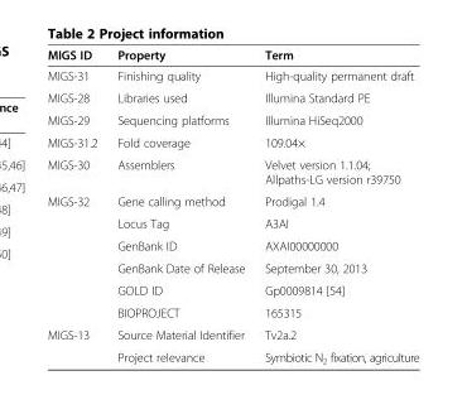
<table><thead><tr><td>MIGS ID</td><td>Property</td><td>Term</td></tr></thead><tbody><tr><td>MIGS-31</td><td>Finishing quality</td><td>High-quality permanent draft</td></tr><tr><td>MIGS-28</td><td>Libraries used</td><td>Illumina Standard PE</td></tr><tr><td>MIGS-29</td><td>Sequencing platforms</td><td>Illumina HiSeq2000</td></tr><tr><td>MIGS-31.2</td><td>Fold coverage</td><td>109.04×</td></tr><tr><td>MIGS-30</td><td>Assemblers</td><td>Velvet version 1.1.04; Allpaths-LG version r39750</td></tr><tr><td rowspan="6">MIGS-32</td><td>Gene calling method</td><td>Prodigal 1.4</td></tr><tr><td>Locus Tag</td><td>A3AI</td></tr><tr><td>GenBank ID</td><td>AXAI00000000</td></tr><tr><td>GenBank Date of Release</td><td>September 30, 2013</td></tr><tr><td>GOLD ID</td><td>Gp0009814 [54]</td></tr><tr><td>BIOPROJECT</td><td>165315</td></tr><tr><td rowspan="2">MIGS-13</td><td>Source Material Identifier</td><td>Tv2a.2</td></tr><tr><td>Project relevance</td><td>Symbiotic N<sub>2</sub> fixation, agriculture</td></tr></tbody></table>